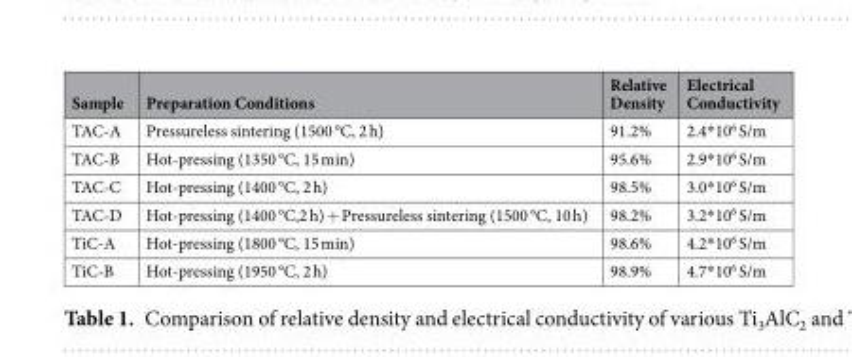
<table><thead><tr><td>Sample</td><td>Preparation Conditions</td><td>Relative Density</td><td>Electrical Conductivity</td></tr></thead><tbody><tr><td>TAC-A</td><td>Pressureless sintering (1500 °C, 2 h)</td><td>91.2%</td><td>2.4*10<sup>6</sup> S/m</td></tr><tr><td>TAC-B</td><td>Hot-pressing (1350 °C, 15 min)</td><td>95.6%</td><td>2.9*10<sup>6</sup> S/m</td></tr><tr><td>TAC-C</td><td>Hot-pressing (1400 °C, 2 h)</td><td>98.5%</td><td>3.0*10<sup>6</sup> S/m</td></tr><tr><td>TAC-D</td><td>Hot-pressing (1400 °C,2 h) + Pressureless sintering (1500 °C, 10 h)</td><td>98.2%</td><td>3.2*10<sup>6</sup> S/m</td></tr><tr><td>TiC-A</td><td>Hot-pressing (1800 °C, 15 min)</td><td>98.6%</td><td>4.2*10<sup>6</sup> S/m</td></tr><tr><td>TiC-B</td><td>Hot-pressing (1950 °C, 2 h)</td><td>98.9%</td><td>4.7*10<sup>6</sup> S/m</td></tr></tbody></table>